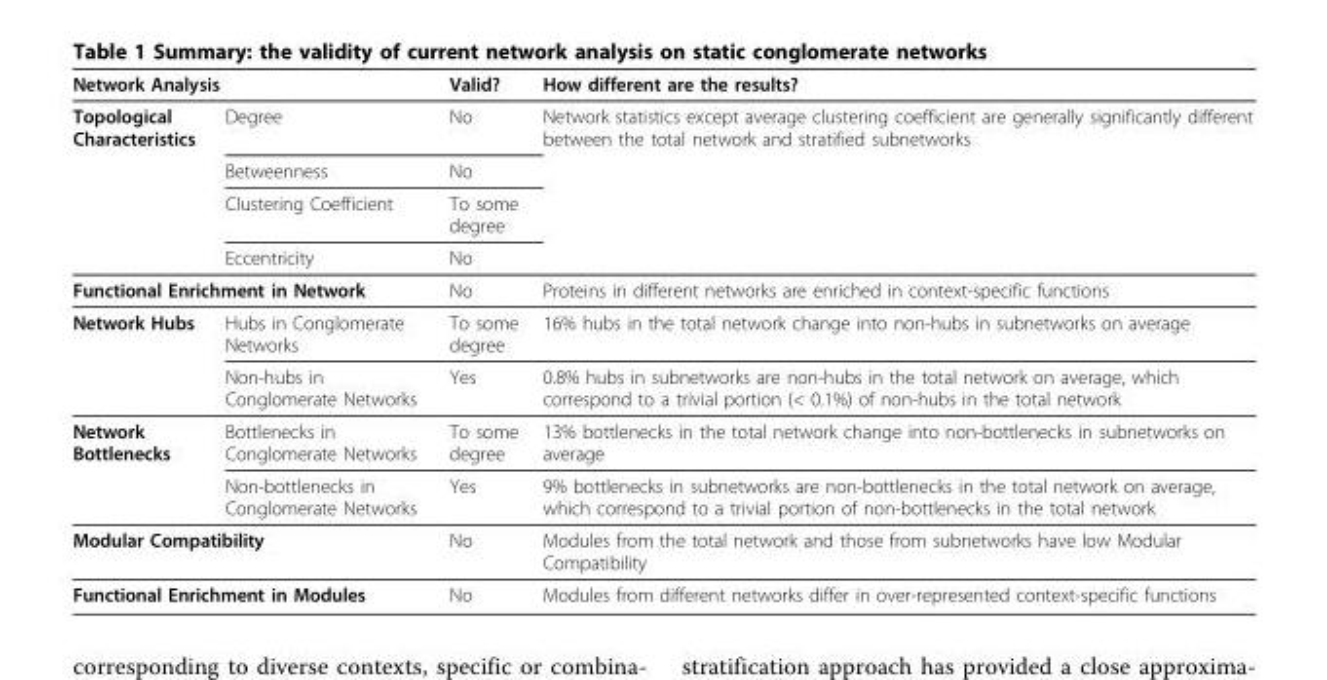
<table><thead><tr><td colspan="2">Network Analysis</td><td rowspan="2">Valid? No</td><td rowspan="2">How different are the results? Network statistics except average clustering coefficient are generally significantly different between the total network and stratified subnetworks</td></tr><tr><td>Topological Characteristics</td><td>Degree</td></tr></thead><tbody><tr><td></td><td>Betweenness</td><td>No</td><td></td></tr><tr><td></td><td>Clustering Coefficient</td><td>To some degree</td><td></td></tr><tr><td></td><td>Eccentricity</td><td>No</td><td></td></tr><tr><td colspan="2">Functional Enrichment in Network</td><td>No</td><td>Proteins in different networks are enriched in context-specific functions</td></tr><tr><td rowspan="2">Network Hubs</td><td>Hubs in Conglomerate Networks</td><td>To some degree</td><td>16% hubs in the total network change into non-hubs in subnetworks on average</td></tr><tr><td>Non-hubs in Conglomerate Networks</td><td>Yes</td><td>0.8% hubs in subnetworks are non-hubs in the total network on average, which correspond to a trivial portion (&lt; 0.1%) of non-hubs in the total network</td></tr><tr><td rowspan="2">Network Bottlenecks</td><td>Bottlenecks in Conglomerate Networks</td><td>To some degree</td><td>13% bottlenecks in the total network change into non-bottlenecks in subnetworks on average</td></tr><tr><td>Non-bottlenecks in Conglomerate Networks</td><td>Yes</td><td>9% bottlenecks in subnetworks are non-bottlenecks in the total network on average, which correspond to a trivial portion of non-bottlenecks in the total network</td></tr><tr><td colspan="2">Modular Compatibility</td><td>No</td><td>Modules from the total network and those from subnetworks have low Modular Compatibility</td></tr><tr><td colspan="2">Functional Enrichment in Modules</td><td>No</td><td>Modules from different networks differ in over-represented context-specific functions</td></tr></tbody></table>